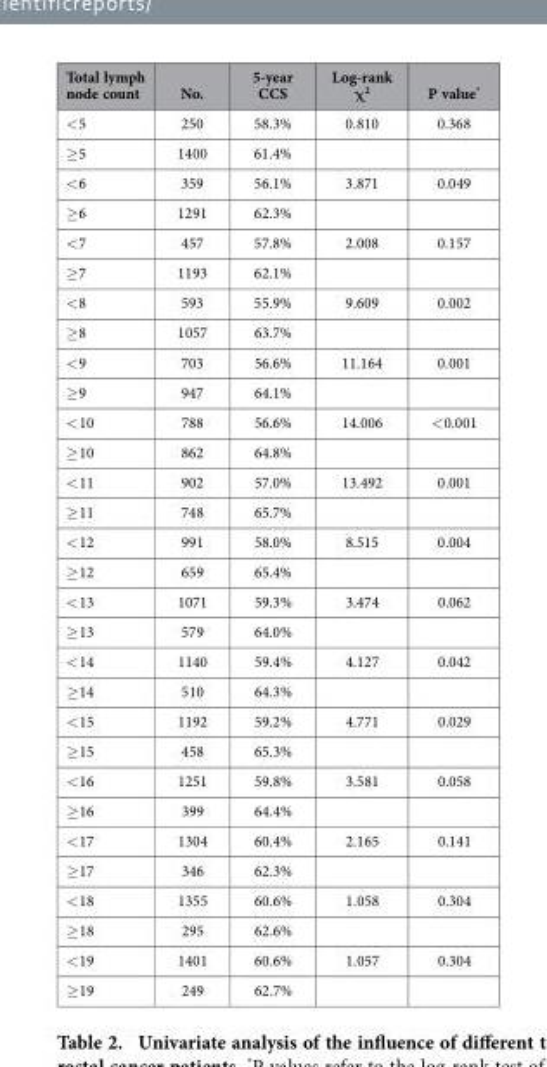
<table><thead><tr><td>Total lymph node count</td><td>No.</td><td>5-year CCS</td><td>Log-rank χ<sup>2</sup></td><td>P value*</td></tr></thead><tbody><tr><td>&lt; 5</td><td>250</td><td>58.3%</td><td>0.810</td><td>0.368</td></tr><tr><td>≥ 5</td><td>1400</td><td>61.4%</td><td></td><td></td></tr><tr><td>&lt; 6</td><td>359</td><td>56.1%</td><td>3.871</td><td>0.049</td></tr><tr><td>≥ 6</td><td>1291</td><td>62.3%</td><td></td><td></td></tr><tr><td>&lt; 7</td><td>457</td><td>57.8%</td><td>2.008</td><td>0.157</td></tr><tr><td>≥ 7</td><td>1193</td><td>62.1%</td><td></td><td></td></tr><tr><td>&lt; 8</td><td>593</td><td>55.9%</td><td>9.609</td><td>0.002</td></tr><tr><td>≥ 8</td><td>1057</td><td>63.7%</td><td></td><td></td></tr><tr><td>&lt; 9</td><td>703</td><td>56.6%</td><td>11.164</td><td>0.001</td></tr><tr><td>≥ 9</td><td>947</td><td>64.1%</td><td></td><td></td></tr><tr><td>&lt; 10</td><td>788</td><td>56.6%</td><td>14.006</td><td>&lt; 0.001</td></tr><tr><td>≥ 10</td><td>862</td><td>64.8%</td><td></td><td></td></tr><tr><td>&lt; 11</td><td>902</td><td>57.0%</td><td>13.492</td><td>0.001</td></tr><tr><td>≥ 11</td><td>748</td><td>65.7%</td><td></td><td></td></tr><tr><td>&lt; 12</td><td>991</td><td>58.0%</td><td>8.515</td><td>0.004</td></tr><tr><td>≥ 12</td><td>659</td><td>65.4%</td><td></td><td></td></tr><tr><td>&lt; 13</td><td>1071</td><td>59.3%</td><td>3.474</td><td>0.062</td></tr><tr><td>≥ 13</td><td>579</td><td>64.0%</td><td></td><td></td></tr><tr><td>&lt; 14</td><td>1140</td><td>59.4%</td><td>4.127</td><td>0.042</td></tr><tr><td>≥ 14</td><td>510</td><td>64.3%</td><td></td><td></td></tr><tr><td>&lt; 15</td><td>1192</td><td>59.2%</td><td>4.771</td><td>0.029</td></tr><tr><td>≥ 15</td><td>458</td><td>65.3%</td><td></td><td></td></tr><tr><td>&lt; 16</td><td>1251</td><td>59.8%</td><td>3.581</td><td>0.058</td></tr><tr><td>≥ 16</td><td>399</td><td>64.4%</td><td></td><td></td></tr><tr><td>&lt; 17</td><td>1304</td><td>60.4%</td><td>2.165</td><td>0.141</td></tr><tr><td>≥ 17</td><td>346</td><td>62.3%</td><td></td><td></td></tr><tr><td>&lt; 18</td><td>1355</td><td>60.6%</td><td>1.058</td><td>0.304</td></tr><tr><td>≥ 18</td><td>295</td><td>62.6%</td><td></td><td></td></tr><tr><td>&lt; 19</td><td>1401</td><td>60.6%</td><td>1.057</td><td>0.304</td></tr><tr><td>≥ 19</td><td>249</td><td>62.7%</td><td></td><td></td></tr></tbody></table>